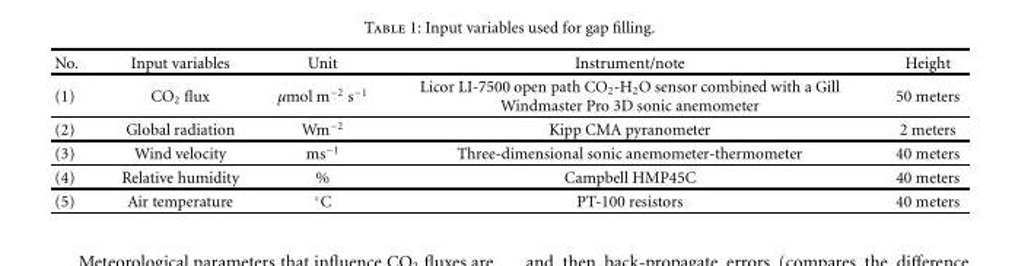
<table><thead><tr><td>No.</td><td>Input variables</td><td>Unit</td><td>Instrument/note</td><td>Height</td></tr></thead><tbody><tr><td>(1)</td><td>CO<sub>2</sub> flux</td><td>µmol m<sup>−2</sup> s<sup>−1</sup></td><td>Licor LI-7500 open path CO<sub>2</sub>-H<sub>2</sub>O sensor combined with a Gill Windmaster Pro 3D sonic anemometer</td><td>50 meters</td></tr><tr><td>(2)</td><td>Global radiation</td><td>Wm<sup>−2</sup></td><td>Kipp CMA pyranometer</td><td>2 meters</td></tr><tr><td>(3)</td><td>Wind velocity</td><td>ms<sup>−1</sup></td><td>Three-dimensional sonic anemometer-thermometer</td><td>40 meters</td></tr><tr><td>(4)</td><td>Relative humidity</td><td>%</td><td>Campbell HMP45C</td><td>40 meters</td></tr><tr><td>(5)</td><td>Air temperature</td><td>◦C</td><td>PT-100 resistors</td><td>40 meters</td></tr></tbody></table>